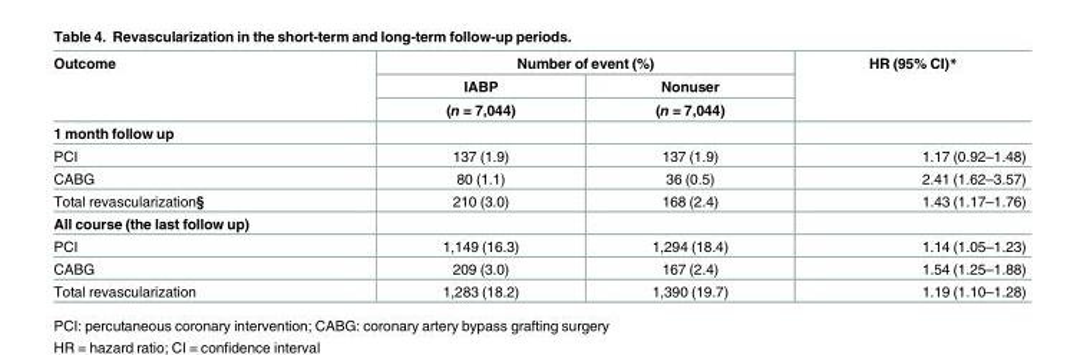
<table><thead><tr><td rowspan="3">Outcome</td><td colspan="2">Number of event (%)</td><td rowspan="3">HR (95% CI)*</td></tr><tr><td rowspan="2">IABP (n = 7,044)</td><td rowspan="2">Nonuser (n = 7,044)</td></tr><tr></tr></thead><tbody><tr><td colspan="4">1 month follow up</td></tr><tr><td>PCI</td><td>137 (1.9)</td><td>137 (1.9)</td><td>1.17 (0.92–1.48)</td></tr><tr><td>CABG</td><td>80 (1.1)</td><td>36 (0.5)</td><td>2.41 (1.62–3.57)</td></tr><tr><td>Total revascularization§</td><td>210 (3.0)</td><td>168 (2.4)</td><td>1.43 (1.17–1.76)</td></tr><tr><td colspan="4">All course (the last follow up)</td></tr><tr><td>PCI</td><td>1,149 (16.3)</td><td>1,294 (18.4)</td><td>1.14 (1.05–1.23)</td></tr><tr><td>CABG</td><td>209 (3.0)</td><td>167 (2.4)</td><td>1.54 (1.25–1.88)</td></tr><tr><td>Total revascularization</td><td>1,283 (18.2)</td><td>1,390 (19.7)</td><td>1.19 (1.10–1.28)</td></tr></tbody></table>